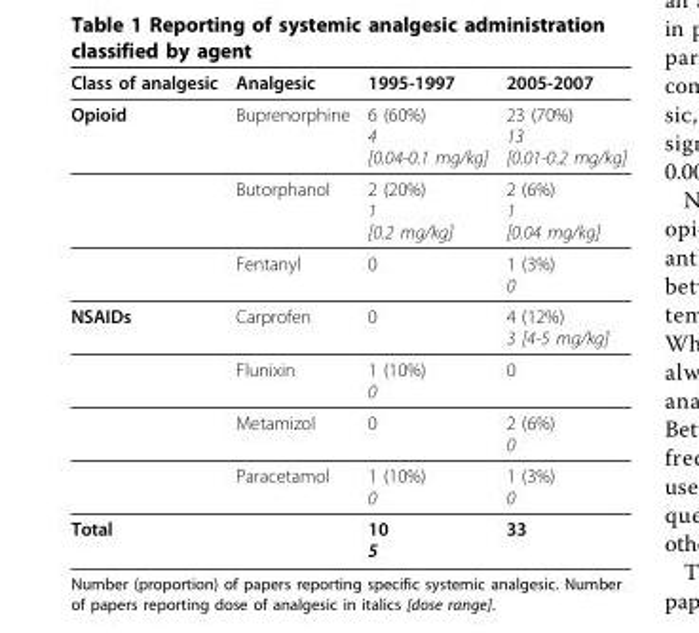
<table><thead><tr><td>Class of analgesic</td><td>Analgesic</td><td>1995-1997</td><td>2005-2007</td></tr></thead><tbody><tr><td rowspan="3">Opioid</td><td>Buprenorphine</td><td>6 (60%) 4 [0.04-0.1 mg/kg]</td><td>23 (70%) 13 [0.01-0.2 mg/kg]</td></tr><tr><td>Butorphanol</td><td>2 (20%) 1 [0.2 mg/kg]</td><td>2 (6%) 1 [0.04 mg/kg]</td></tr><tr><td>Fentanyl</td><td>0</td><td>1 (3%) 0</td></tr><tr><td rowspan="4">NSAIDs</td><td>Carprofen</td><td>0</td><td>4 (12%) 3 [4-5 mg/kg]</td></tr><tr><td>Flunixin</td><td>1 (10%) 0</td><td>0</td></tr><tr><td>Metamizol</td><td>0</td><td>2 (6%) 0</td></tr><tr><td>Paracetamol</td><td>1 (10%) 0</td><td>1 (3%) 0</td></tr><tr><td>Total</td><td></td><td>10 5</td><td>33</td></tr></tbody></table>